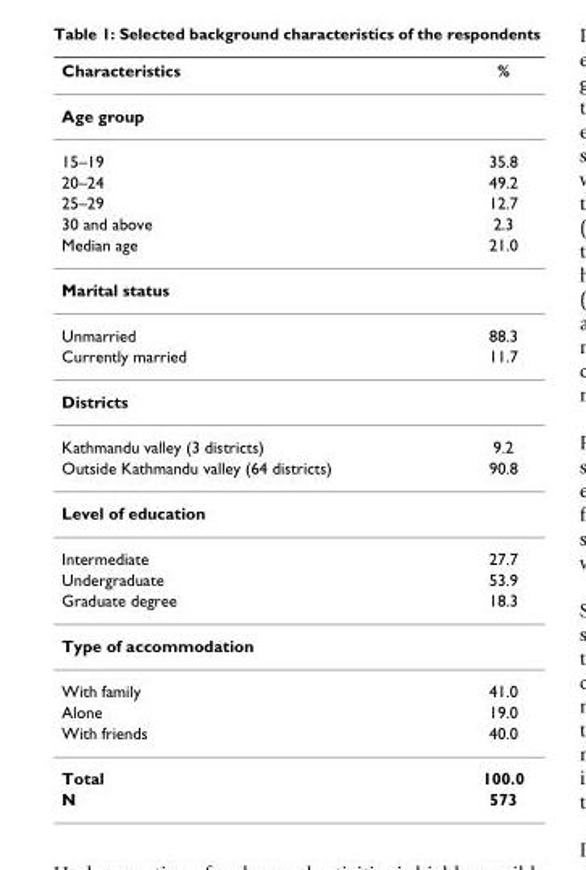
<table><thead><tr><td>Characteristics</td><td>%</td></tr></thead><tbody><tr><td colspan="2">Age group</td></tr><tr><td>15–19</td><td>35.8</td></tr><tr><td>20–24</td><td>49.2</td></tr><tr><td>25–29</td><td>12.7</td></tr><tr><td>30 and above</td><td>2.3</td></tr><tr><td>Median age</td><td>21.0</td></tr><tr><td colspan="2">Marital status</td></tr><tr><td>Unmarried</td><td>88.3</td></tr><tr><td>Currently married</td><td>11.7</td></tr><tr><td colspan="2">Districts</td></tr><tr><td>Kathmandu valley (3 districts)</td><td>9.2</td></tr><tr><td>Outside Kathmandu valley (64 districts)</td><td>90.8</td></tr><tr><td colspan="2">Level of education</td></tr><tr><td>Intermediate</td><td>27.7</td></tr><tr><td>Undergraduate</td><td>53.9</td></tr><tr><td>Graduate degree</td><td>18.3</td></tr><tr><td colspan="2">Type of accommodation</td></tr><tr><td>With family</td><td>41.0</td></tr><tr><td>Alone</td><td>19.0</td></tr><tr><td>With friends</td><td>40.0</td></tr><tr><td>Total</td><td>100.0</td></tr><tr><td>N</td><td>573</td></tr></tbody></table>